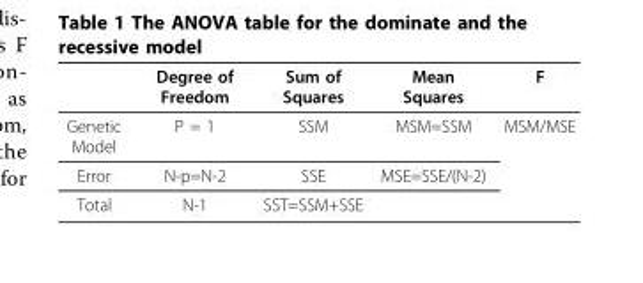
<table><thead><tr><td></td><td>Degree of Freedom</td><td>Sum of Squares</td><td>Mean Squares</td><td>F</td></tr></thead><tbody><tr><td>Genetic Model</td><td>P = 1</td><td>SSM</td><td>MSM=SSM</td><td>MSM/MSE</td></tr><tr><td>Error</td><td>N-p=N-2</td><td>SSE</td><td>MSE=SSE/(N-2)</td><td></td></tr><tr><td>Total</td><td>N-1</td><td>SST=SSM+SSE</td><td></td><td></td></tr></tbody></table>